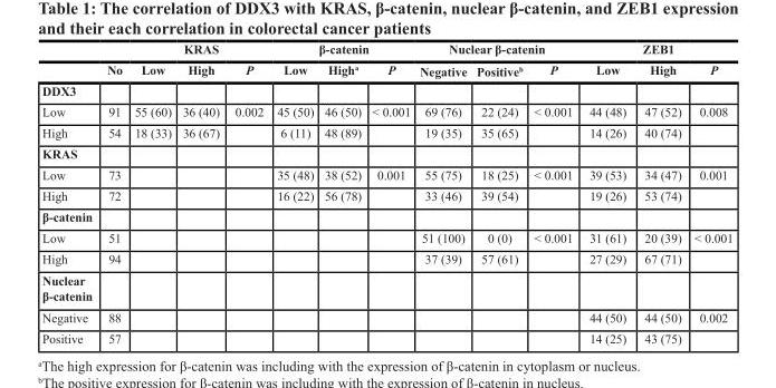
<table><thead><tr><td rowspan="2"></td><td rowspan="2">No</td><td colspan="3">KRAS</td><td colspan="3">β‑catenin</td><td colspan="3">Nuclear β‑catenin</td><td colspan="3">ZEB1</td></tr><tr><td>Low</td><td>High</td><td>P</td><td>Low</td><td>High<sup>a</sup></td><td>P</td><td>Negative</td><td>Positive<sup>b</sup></td><td>P</td><td>Low</td><td>High</td><td>P</td></tr></thead><tbody><tr><td colspan="14">DDX3</td></tr><tr><td>Low</td><td>91</td><td>55 (60)</td><td>36 (40)</td><td>0.002</td><td>45 (50)</td><td>46 (50)</td><td>&lt; 0.001</td><td>69 (76)</td><td>22 (24)</td><td>&lt; 0.001</td><td>44 (48)</td><td>47 (52)</td><td>0.008</td></tr><tr><td>High</td><td>54</td><td>18 (33)</td><td>36 (67)</td><td></td><td>6 (11)</td><td>48 (89)</td><td></td><td>19 (35)</td><td>35 (65)</td><td></td><td>14 (26)</td><td>40 (74)</td><td></td></tr><tr><td colspan="14">KRAS</td></tr><tr><td>Low</td><td>73</td><td></td><td></td><td></td><td>35 (48)</td><td>38 (52)</td><td>0.001</td><td>55 (75)</td><td>18 (25)</td><td>&lt; 0.001</td><td>39 (53)</td><td>34 (47)</td><td>0.001</td></tr><tr><td>High</td><td>72</td><td></td><td></td><td></td><td>16 (22)</td><td>56 (78)</td><td></td><td>33 (46)</td><td>39 (54)</td><td></td><td>19 (26)</td><td>53 (74)</td><td></td></tr><tr><td colspan="14">β‑catenin</td></tr><tr><td>Low</td><td>51</td><td></td><td></td><td></td><td></td><td></td><td></td><td>51 (100)</td><td>0 (0)</td><td>&lt; 0.001</td><td>31 (61)</td><td>20 (39)</td><td>&lt; 0.001</td></tr><tr><td>High</td><td>94</td><td></td><td></td><td></td><td></td><td></td><td></td><td>37 (39)</td><td>57 (61)</td><td></td><td>27 (29)</td><td>67 (71)</td><td></td></tr><tr><td colspan="14">Nuclear β‑catenin</td></tr><tr><td>Negative</td><td>88</td><td></td><td></td><td></td><td></td><td></td><td></td><td></td><td></td><td></td><td>44 (50)</td><td>44 (50)</td><td>0.002</td></tr><tr><td>Positive</td><td>57</td><td></td><td></td><td></td><td></td><td></td><td></td><td></td><td></td><td></td><td>14 (25)</td><td>43 (75)</td><td></td></tr></tbody></table>